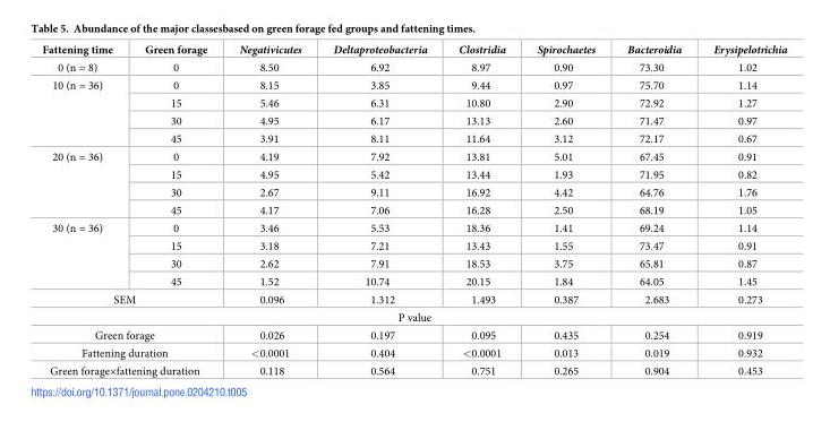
<table><thead><tr><td>Fattening time</td><td>Green forage</td><td>Negativicutes</td><td>Deltaproteobacteria</td><td>Clostridia</td><td>Spirochaetes</td><td>Bacteroidia</td><td>Erysipelotrichia</td></tr></thead><tbody><tr><td>0 (n = 8)</td><td>0</td><td>8.50</td><td>6.92</td><td>8.97</td><td>0.90</td><td>73.30</td><td>1.02</td></tr><tr><td rowspan="4">10 (n = 36)</td><td>0</td><td>8.15</td><td>3.85</td><td>9.44</td><td>0.97</td><td>75.70</td><td>1.14</td></tr><tr><td>15</td><td>5.46</td><td>6.31</td><td>10.80</td><td>2.90</td><td>72.92</td><td>1.27</td></tr><tr><td>30</td><td>4.95</td><td>6.17</td><td>13.13</td><td>2.60</td><td>71.47</td><td>0.97</td></tr><tr><td>45</td><td>3.91</td><td>8.11</td><td>11.64</td><td>3.12</td><td>72.17</td><td>0.67</td></tr><tr><td rowspan="4">20 (n = 36)</td><td>0</td><td>4.19</td><td>7.92</td><td>13.81</td><td>5.01</td><td>67.45</td><td>0.91</td></tr><tr><td>15</td><td>4.95</td><td>5.42</td><td>13.44</td><td>1.93</td><td>71.95</td><td>0.82</td></tr><tr><td>30</td><td>2.67</td><td>9.11</td><td>16.92</td><td>4.42</td><td>64.76</td><td>1.76</td></tr><tr><td>45</td><td>4.17</td><td>7.06</td><td>16.28</td><td>2.50</td><td>68.19</td><td>1.05</td></tr><tr><td rowspan="4">30 (n = 36)</td><td>0</td><td>3.46</td><td>5.53</td><td>18.36</td><td>1.41</td><td>69.24</td><td>1.14</td></tr><tr><td>15</td><td>3.18</td><td>7.21</td><td>13.43</td><td>1.55</td><td>73.47</td><td>0.91</td></tr><tr><td>30</td><td>2.62</td><td>7.91</td><td>18.53</td><td>3.75</td><td>65.81</td><td>0.87</td></tr><tr><td>45</td><td>1.52</td><td>10.74</td><td>20.15</td><td>1.84</td><td>64.05</td><td>1.45</td></tr><tr><td colspan="2">SEM</td><td>0.096</td><td>1.312</td><td>1.493</td><td>0.387</td><td>2.683</td><td>0.273</td></tr><tr><td colspan="8">P value</td></tr><tr><td colspan="2">Green forage</td><td>0.026</td><td>0.197</td><td>0.095</td><td>0.435</td><td>0.254</td><td>0.919</td></tr><tr><td colspan="2">Fattening duration</td><td>&lt;0.0001</td><td>0.404</td><td>&lt;0.0001</td><td>0.013</td><td>0.019</td><td>0.932</td></tr><tr><td colspan="2">Green forage×fattening duration</td><td>0.118</td><td>0.564</td><td>0.751</td><td>0.265</td><td>0.904</td><td>0.453</td></tr></tbody></table>